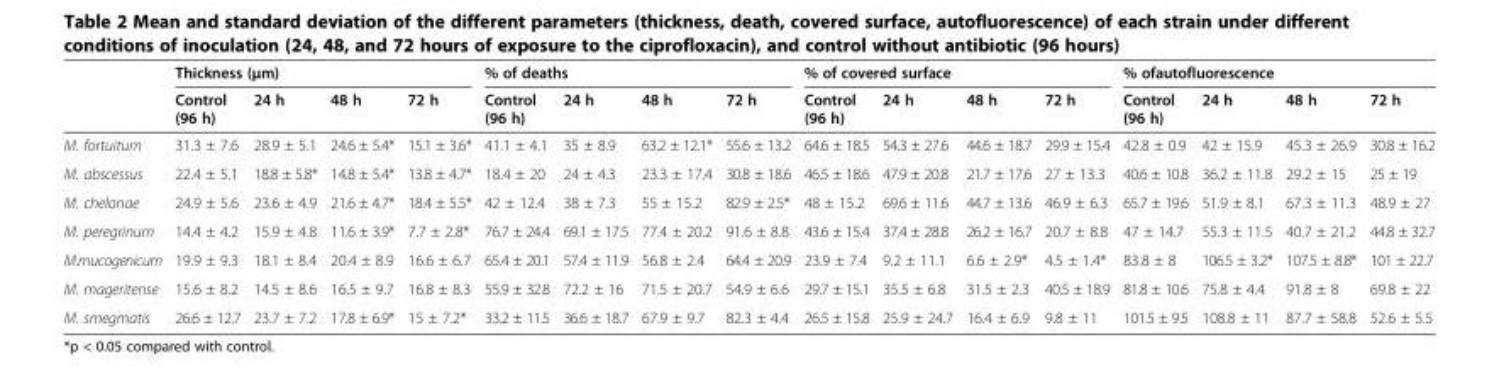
<table><thead><tr><td rowspan="2"></td><td colspan="4">Thickness (μm)</td><td colspan="4">% of deaths</td><td colspan="4">% of covered surface</td><td colspan="4">% ofautofluorescence</td></tr><tr><td>Control (96 h)</td><td>24 h</td><td>48 h</td><td>72 h</td><td>Control (96 h)</td><td>24 h</td><td>48 h</td><td>72 h</td><td>Control (96 h)</td><td>24 h</td><td>48 h</td><td>72 h</td><td>Control (96 h)</td><td>24 h</td><td>48 h</td><td>72 h</td></tr></thead><tbody><tr><td>M. fortuitum</td><td>31.3 ± 7.6</td><td>28.9 ± 5.1</td><td>24.6 ± 5.4*</td><td>15.1 ± 3.6*</td><td>41.1 ± 4.1</td><td>35 ± 8.9</td><td>63.2 ± 12.1*</td><td>55.6 ± 13.2</td><td>64.6 ± 18.5</td><td>54.3 ± 27.6</td><td>44.6 ± 18.7</td><td>29.9 ± 15.4</td><td>42.8 ± 0.9</td><td>42 ± 15.9</td><td>45.3 ± 26.9</td><td>30.8 ± 16.2</td></tr><tr><td>M. abscessus</td><td>22.4 ± 5.1</td><td>18.8 ± 5.8*</td><td>14.8 ± 5.4*</td><td>13.8 ± 4.7*</td><td>18.4 ± 20</td><td>24 ± 4.3</td><td>23.3 ± 17.4</td><td>30.8 ± 18.6</td><td>46.5 ± 18.6</td><td>47.9 ± 20.8</td><td>21.7 ± 17.6</td><td>27 ± 13.3</td><td>40.6 ± 10.8</td><td>36.2 ± 11.8</td><td>29.2 ± 15</td><td>25 ± 19</td></tr><tr><td>M. chelonae</td><td>24.9 ± 5.6</td><td>23.6 ± 4.9</td><td>21.6 ± 4.7*</td><td>18.4 ± 5.5*</td><td>42 ± 12.4</td><td>38 ± 7.3</td><td>55 ± 15.2</td><td>82.9 ± 2.5*</td><td>48 ± 15.2</td><td>69.6 ± 11.6</td><td>44.7 ± 13.6</td><td>46.9 ± 6.3</td><td>65.7 ± 19.6</td><td>51.9 ± 8.1</td><td>67.3 ± 11.3</td><td>48.9 ± 27</td></tr><tr><td>M. peregrinum</td><td>14.4 ± 4.2</td><td>15.9 ± 4.8</td><td>11.6 ± 3.9*</td><td>7.7 ± 2.8*</td><td>76.7 ± 24.4</td><td>69.1 ± 17.5</td><td>77.4 ± 20.2</td><td>91.6 ± 8.8</td><td>43.6 ± 15.4</td><td>37.4 ± 28.8</td><td>26.2 ± 16.7</td><td>20.7 ± 8.8</td><td>47 ± 14.7</td><td>55.3 ± 11.5</td><td>40.7 ± 21.2</td><td>44.8 ± 32.7</td></tr><tr><td>M.mucogenicum</td><td>19.9 ± 9.3</td><td>18.1 ± 8.4</td><td>20.4 ± 8.9</td><td>16.6 ± 6.7</td><td>65.4 ± 20.1</td><td>57.4 ± 11.9</td><td>56.8 ± 2.4</td><td>64.4 ± 20.9</td><td>23.9 ± 7.4</td><td>9.2 ± 11.1</td><td>6.6 ± 2.9*</td><td>4.5 ± 1.4*</td><td>83.8 ± 8</td><td>106.5 ± 3.2*</td><td>107.5 ± 8.8*</td><td>101 ± 22.7</td></tr><tr><td>M. mageritense</td><td>15.6 ± 8.2</td><td>14.5 ± 8.6</td><td>16.5 ± 9.7</td><td>16.8 ± 8.3</td><td>55.9 ± 32.8</td><td>72.2 ± 16</td><td>71.5 ± 20.7</td><td>54.9 ± 6.6</td><td>29.7 ± 15.1</td><td>35.5 ± 6.8</td><td>31.5 ± 2.3</td><td>40.5 ± 18.9</td><td>81.8 ± 10.6</td><td>75.8 ± 4.4</td><td>91.8 ± 8</td><td>69.8 ± 22</td></tr><tr><td>M. smegmatis</td><td>26.6 ± 12.7</td><td>23.7 ± 7.2</td><td>17.8 ± 6.9*</td><td>15 ± 7.2*</td><td>33.2 ± 11.5</td><td>36.6 ± 18.7</td><td>67.9 ± 9.7</td><td>82.3 ± 4.4</td><td>26.5 ± 15.8</td><td>25.9 ± 24.7</td><td>16.4 ± 6.9</td><td>9.8 ± 11</td><td>101.5 ± 9.5</td><td>108.8 ± 11</td><td>87.7 ± 58.8</td><td>52.6 ± 5.5</td></tr></tbody></table>